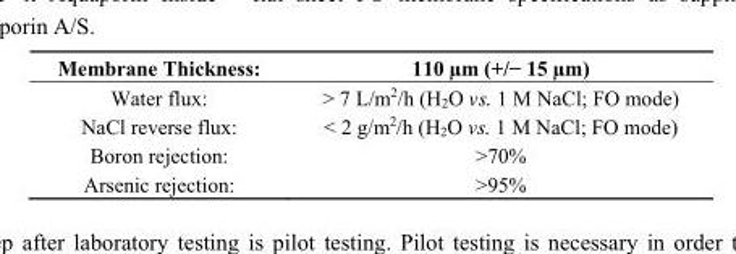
<table><thead><tr><td>Membrane Thickness:</td><td>110 µm (+/− 15 µm)</td></tr></thead><tbody><tr><td>Water flux:</td><td>&gt; 7 L/m<sup>2</sup>/h (H<sub>2</sub>O vs. 1 M NaCl; FO mode)</td></tr><tr><td>NaCl reverse flux:</td><td>&lt; 2 g/m<sup>2</sup>/h (H<sub>2</sub>O vs. 1 M NaCl; FO mode)</td></tr><tr><td>Boron rejection:</td><td>&gt;70%</td></tr><tr><td>Arsenic rejection:</td><td>&gt;95%</td></tr></tbody></table>